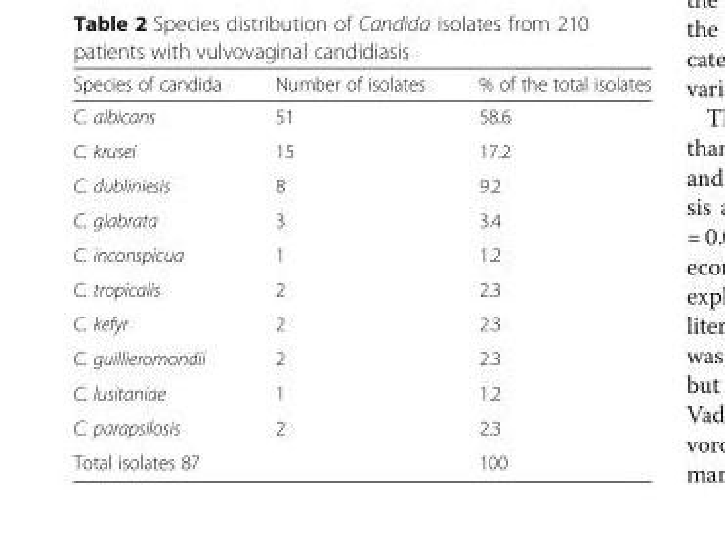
<table><thead><tr><td>Species of candida</td><td>Number of isolates</td><td>% of the total isolates</td></tr></thead><tbody><tr><td>C. albicans</td><td>51</td><td>58.6</td></tr><tr><td>C. krusei</td><td>15</td><td>17.2</td></tr><tr><td>C. dubliniesis</td><td>8</td><td>9.2</td></tr><tr><td>C. glabrata</td><td>3</td><td>3.4</td></tr><tr><td>C. inconspicua</td><td>1</td><td>1.2</td></tr><tr><td>C. tropicalis</td><td>2</td><td>2.3</td></tr><tr><td>C. kefyr</td><td>2</td><td>2.3</td></tr><tr><td>C. guillieromondii</td><td>2</td><td>2.3</td></tr><tr><td>C. lusitaniae</td><td>1</td><td>1.2</td></tr><tr><td>C. parapsilosis</td><td>2</td><td>2.3</td></tr><tr><td>Total isolates 87</td><td></td><td>100</td></tr></tbody></table>